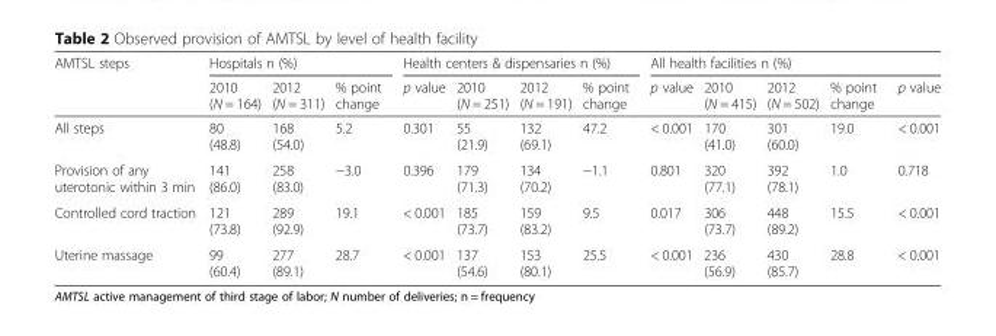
<table><thead><tr><td rowspan="2">AMTSL steps</td><td colspan="3">Hospitals n (%)</td><td colspan="4">Health centers &amp; dispensaries n (%)</td><td colspan="5">All health facilities n (%)</td></tr><tr><td>2010 (N = 164)</td><td>2012 (N = 311)</td><td>% point change</td><td>p value</td><td>2010 (N = 251)</td><td>2012 (N = 191)</td><td>% point change</td><td>p value</td><td>2010 (N = 415)</td><td>2012 (N = 502)</td><td>% point change</td><td>p value</td></tr></thead><tbody><tr><td>All steps</td><td>80 (48.8)</td><td>168 (54.0)</td><td>5.2</td><td>0.301</td><td>55 (21.9)</td><td>132 (69.1)</td><td>47.2</td><td>&lt; 0.001</td><td>170 (41.0)</td><td>301 (60.0)</td><td>19.0</td><td>&lt; 0.001</td></tr><tr><td>Provision of any uterotonic within 3 min</td><td>141 (86.0)</td><td>258 (83.0)</td><td>−3.0</td><td>0.396</td><td>179 (71.3)</td><td>134 (70.2)</td><td>−1.1</td><td>0.801</td><td>320 (77.1)</td><td>392 (78.1)</td><td>1.0</td><td>0.718</td></tr><tr><td>Controlled cord traction</td><td>121 (73.8)</td><td>289 (92.9)</td><td>19.1</td><td>&lt; 0.001</td><td>185 (73.7)</td><td>159 (83.2)</td><td>9.5</td><td>0.017</td><td>306 (73.7)</td><td>448 (89.2)</td><td>15.5</td><td>&lt; 0.001</td></tr><tr><td>Uterine massage</td><td>99 (60.4)</td><td>277 (89.1)</td><td>28.7</td><td>&lt; 0.001</td><td>137 (54.6)</td><td>153 (80.1)</td><td>25.5</td><td>&lt; 0.001</td><td>236 (56.9)</td><td>430 (85.7)</td><td>28.8</td><td>&lt; 0.001</td></tr></tbody></table>